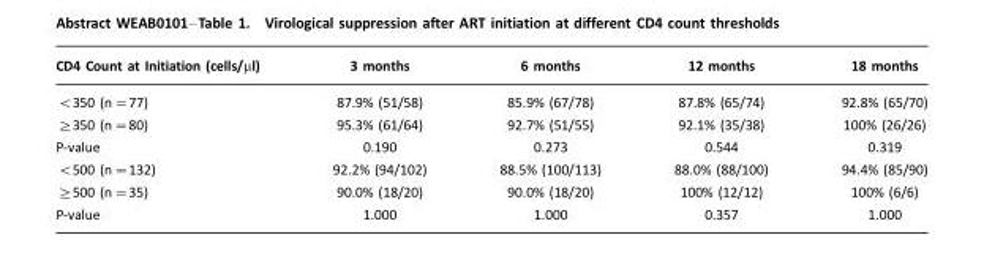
<table><thead><tr><td>CD4 Count at Initiation (cells/µl)</td><td>3 months</td><td>6 months</td><td>12 months</td><td>18 months</td></tr></thead><tbody><tr><td>&lt;350 (n=77)</td><td>87.9% (51/58)</td><td>85.9% (67/78)</td><td>87.8% (65/74)</td><td>92.8% (65/70)</td></tr><tr><td>≥350 (n=80)</td><td>95.3% (61/64)</td><td>92.7% (51/55)</td><td>92.1% (35/38)</td><td>100% (26/26)</td></tr><tr><td>P-value</td><td>0.190</td><td>0.273</td><td>0.544</td><td>0.319</td></tr><tr><td>&lt;500 (n=132)</td><td>92.2% (94/102)</td><td>88.5% (100/113)</td><td>88.0% (88/100)</td><td>94.4% (85/90)</td></tr><tr><td>≥500 (n=35)</td><td>90.0% (18/20)</td><td>90.0% (18/20)</td><td>100% (12/12)</td><td>100% (6/6)</td></tr><tr><td>P-value</td><td>1.000</td><td>1.000</td><td>0.357</td><td>1.000</td></tr></tbody></table>